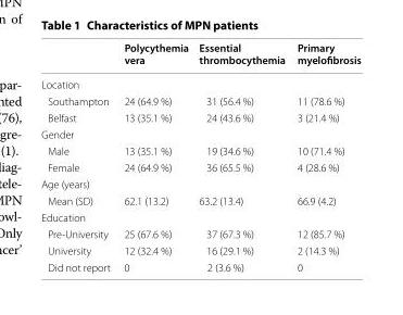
<table><thead><tr><td></td><td>Polycythemia vera</td><td>Essential thrombocythemia</td><td>Primary myelofibrosis</td></tr></thead><tbody><tr><td colspan="4">Location</td></tr><tr><td>Southampton</td><td>24 (64.9 %)</td><td>31 (56.4 %)</td><td>11 (78.6 %)</td></tr><tr><td>Belfast</td><td>13 (35.1 %)</td><td>24 (43.6 %)</td><td>3 (21.4 %)</td></tr><tr><td colspan="4">Gender</td></tr><tr><td>Male</td><td>13 (35.1 %)</td><td>19 (34.6 %)</td><td>10 (71.4 %)</td></tr><tr><td>Female</td><td>24 (64.9 %)</td><td>36 (65.5 %)</td><td>4 (28.6 %)</td></tr><tr><td colspan="4">Age (years)</td></tr><tr><td>Mean (SD)</td><td>62.1 (13.2)</td><td>63.2 (13.4)</td><td>66.9 (4.2)</td></tr><tr><td colspan="4">Education</td></tr><tr><td>Pre-University</td><td>25 (67.6 %)</td><td>37 (67.3 %)</td><td>12 (85.7 %)</td></tr><tr><td>University</td><td>12 (32.4 %)</td><td>16 (29.1 %)</td><td>2 (14.3 %)</td></tr><tr><td>Did not report</td><td>0</td><td>2 (3.6 %)</td><td>0</td></tr></tbody></table>